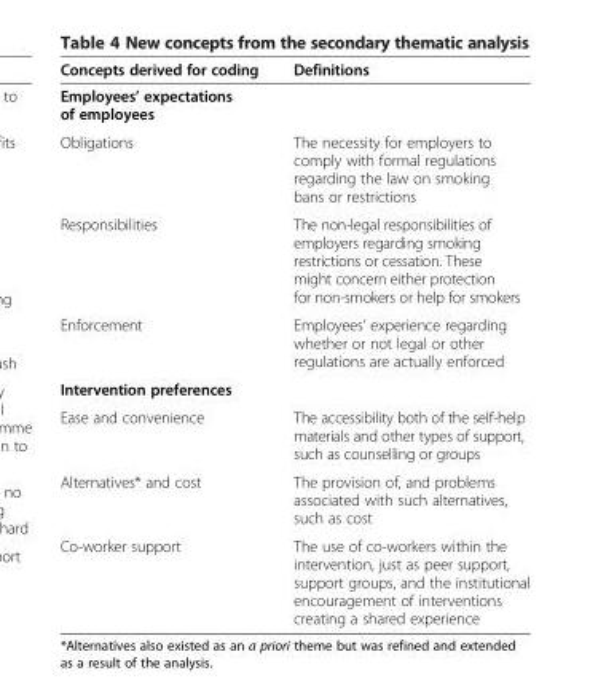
<table><thead><tr><td>Concepts derived for coding</td><td>Definitions</td></tr></thead><tbody><tr><td colspan="2">Employees’ expectations of employees</td></tr><tr><td>Obligations</td><td>The necessity for employers to comply with formal regulations regarding the law on smoking bans or restrictions</td></tr><tr><td>Responsibilities</td><td>The non-legal responsibilities of employers regarding smoking restrictions or cessation. These might concern either protection for non-smokers or help for smokers</td></tr><tr><td>Enforcement</td><td>Employees’ experience regarding whether or not legal or other regulations are actually enforced</td></tr><tr><td colspan="2">Intervention preferences</td></tr><tr><td>Ease and convenience</td><td>The accessibility both of the self-help materials and other types of support, such as counselling or groups</td></tr><tr><td>Alternatives* and cost</td><td>The provision of, and problems associated with such alternatives, such as cost</td></tr><tr><td>Co-worker support</td><td>The use of co-workers within the intervention, just as peer support, support groups, and the institutional encouragement of interventions creating a shared experience</td></tr></tbody></table>